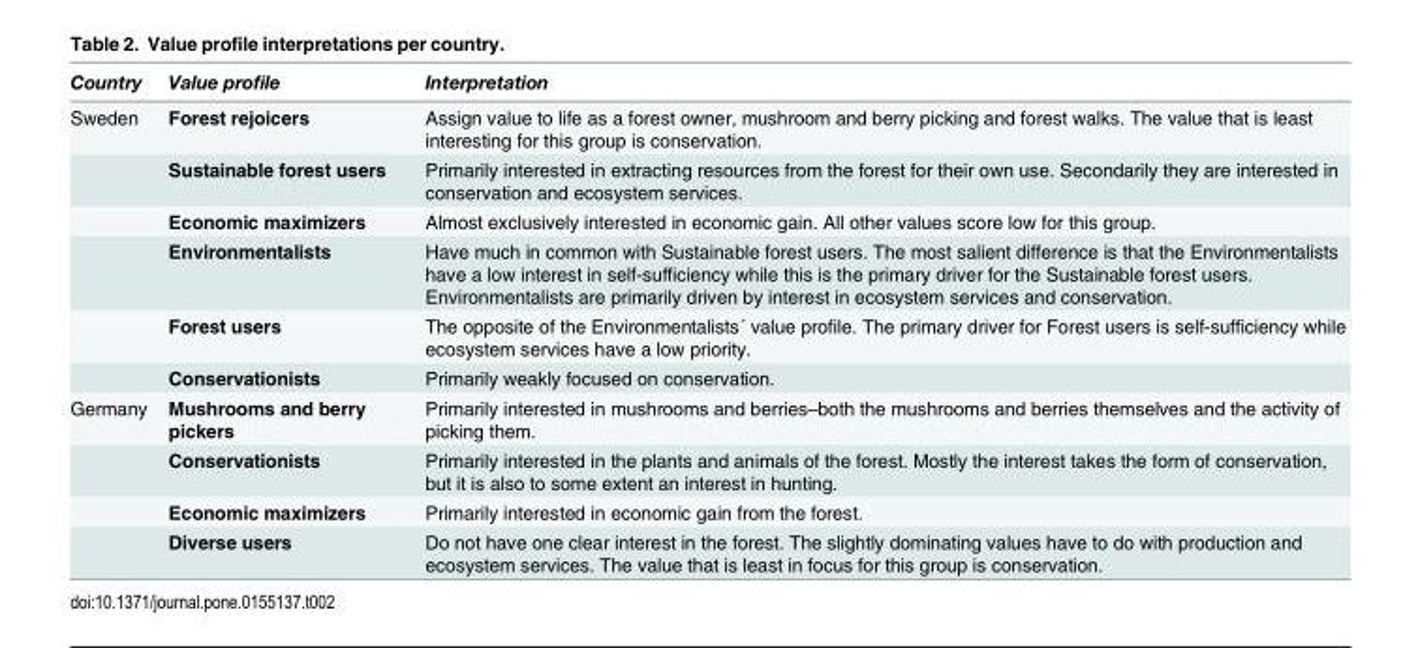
<table><thead><tr><td>Country</td><td>Value profile</td><td>Interpretation</td></tr></thead><tbody><tr><td rowspan="6">Sweden</td><td>Forest rejoicers</td><td>Assign value to life as a forest owner, mushroom and berry picking and forest walks. The value that is least interesting for this group is conservation.</td></tr><tr><td>Sustainable forest users</td><td>Primarily interested in extracting resources from the forest for their own use. Secondarily they are interested in conservation and ecosystem services.</td></tr><tr><td>Economic maximizers</td><td>Almost exclusively interested in economic gain. All other values score low for this group.</td></tr><tr><td>Environmentalists</td><td>Have much in common with Sustainable forest users. The most salient difference is that the Environmentalists have a low interest in self-sufficiency while this is the primary driver for the Sustainable forest users. Environmentalists are primarily driven by interest in ecosystem services and conservation.</td></tr><tr><td>Forest users</td><td>The opposite of the Environmentalists´ value profile. The primary driver for Forest users is self-sufficiency while ecosystem services have a low priority.</td></tr><tr><td>Conservationists</td><td>Primarily weakly focused on conservation.</td></tr><tr><td rowspan="4">Germany</td><td>Mushrooms and berry pickers</td><td>Primarily interested in mushrooms and berries–both the mushrooms and berries themselves and the activity of picking them.</td></tr><tr><td>Conservationists</td><td>Primarily interested in the plants and animals of the forest. Mostly the interest takes the form of conservation, but it is also to some extent an interest in hunting.</td></tr><tr><td>Economic maximizers</td><td>Primarily interested in economic gain from the forest.</td></tr><tr><td>Diverse users</td><td>Do not have one clear interest in the forest. The slightly dominating values have to do with production and ecosystem services. The value that is least in focus for this group is conservation.</td></tr></tbody></table>